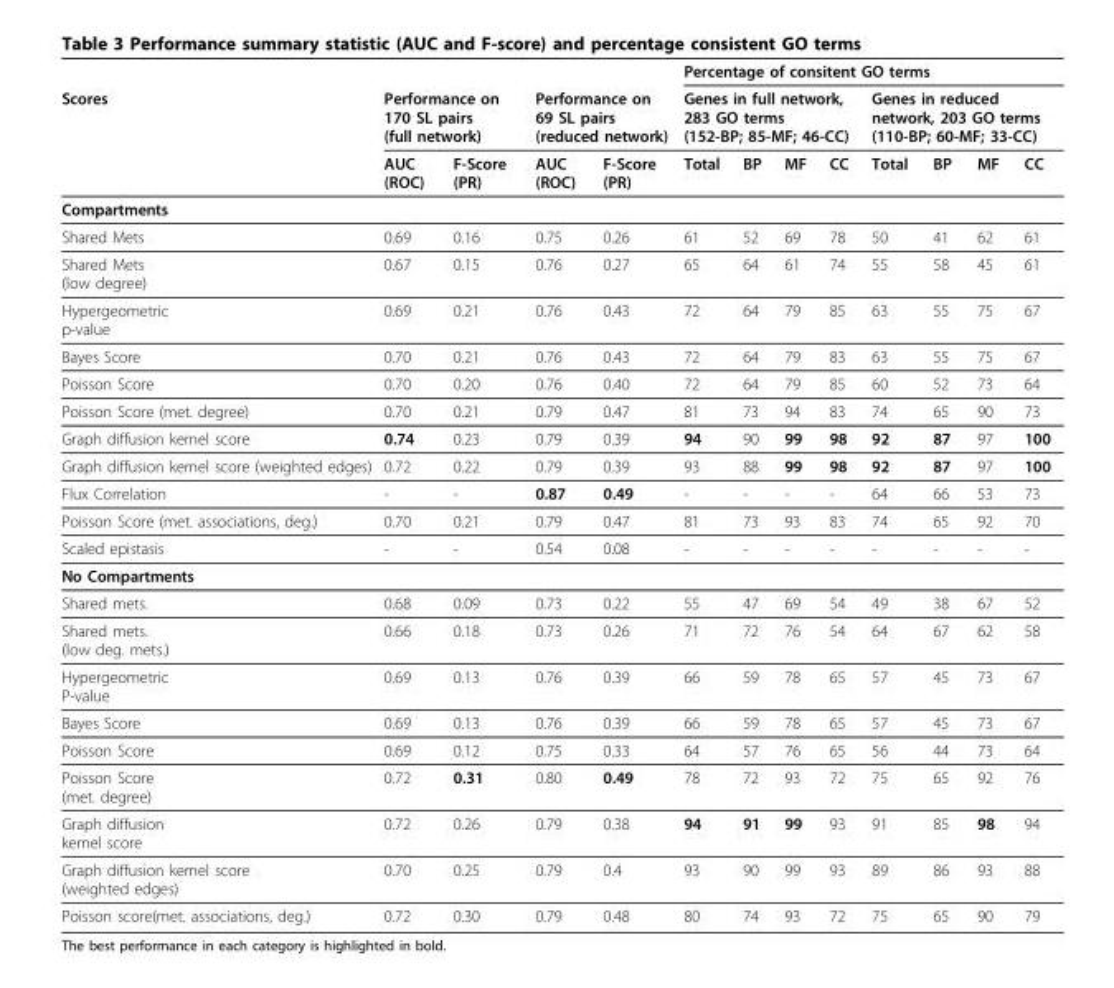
<table><thead><tr><td rowspan="3">Scores</td><td></td><td></td><td></td><td></td><td colspan="8">Percentage of consitent GO terms</td></tr><tr><td colspan="2">Performance on 170 SL pairs (full network)</td><td colspan="2">Performance on 69 SL pairs (reduced network)</td><td colspan="4">Genes in full network, 283 GO terms (152-BP; 85-MF; 46-CC)</td><td colspan="4">Genes in reduced network, 203 GO terms (110-BP; 60-MF; 33-CC)</td></tr><tr><td>AUC (ROC)</td><td>F-Score (PR)</td><td>AUC (ROC)</td><td>F-Score (PR)</td><td>Total</td><td>BP</td><td>MF</td><td>CC</td><td>Total</td><td>BP</td><td>MF</td><td>CC</td></tr></thead><tbody><tr><td colspan="13">Compartments</td></tr><tr><td>Shared Mets</td><td>0.69</td><td>0.16</td><td>0.75</td><td>0.26</td><td>61</td><td>52</td><td>69</td><td>78</td><td>50</td><td>41</td><td>62</td><td>61</td></tr><tr><td>Shared Mets (low degree)</td><td>0.67</td><td>0.15</td><td>0.76</td><td>0.27</td><td>65</td><td>64</td><td>61</td><td>74</td><td>55</td><td>58</td><td>45</td><td>61</td></tr><tr><td>Hypergeometric p-value</td><td>0.69</td><td>0.21</td><td>0.76</td><td>0.43</td><td>72</td><td>64</td><td>79</td><td>85</td><td>63</td><td>55</td><td>75</td><td>67</td></tr><tr><td>Bayes Score</td><td>0.70</td><td>0.21</td><td>0.76</td><td>0.43</td><td>72</td><td>64</td><td>79</td><td>83</td><td>63</td><td>55</td><td>75</td><td>67</td></tr><tr><td>Poisson Score</td><td>0.70</td><td>0.20</td><td>0.76</td><td>0.40</td><td>72</td><td>64</td><td>79</td><td>85</td><td>60</td><td>52</td><td>73</td><td>64</td></tr><tr><td>Poisson Score (met. degree)</td><td>0.70</td><td>0.21</td><td>0.79</td><td>0.47</td><td>81</td><td>73</td><td>94</td><td>83</td><td>74</td><td>65</td><td>90</td><td>73</td></tr><tr><td>Graph diffusion kernel score</td><td>0.74</td><td>0.23</td><td>0.79</td><td>0.39</td><td>94</td><td>90</td><td>99</td><td>98</td><td>92</td><td>87</td><td>97</td><td>100</td></tr><tr><td>Graph diffusion kernel score (weighted edges)</td><td>0.72</td><td>0.22</td><td>0.79</td><td>0.39</td><td>93</td><td>88</td><td>99</td><td>98</td><td>92</td><td>87</td><td>97</td><td>100</td></tr><tr><td>Flux Correlation</td><td>-</td><td>-</td><td>0.87</td><td>0.49</td><td>-</td><td>-</td><td>-</td><td>-</td><td>64</td><td>66</td><td>53</td><td>73</td></tr><tr><td>Poisson Score (met. associations, deg.)</td><td>0.70</td><td>0.21</td><td>0.79</td><td>0.47</td><td>81</td><td>73</td><td>93</td><td>83</td><td>74</td><td>65</td><td>92</td><td>70</td></tr><tr><td>Scaled epistasis</td><td>-</td><td>-</td><td>0.54</td><td>0.08</td><td>-</td><td>-</td><td>-</td><td>-</td><td>-</td><td>-</td><td>-</td><td>-</td></tr><tr><td colspan="13">No Compartments</td></tr><tr><td>Shared mets.</td><td>0.68</td><td>0.09</td><td>0.73</td><td>0.22</td><td>55</td><td>47</td><td>69</td><td>54</td><td>49</td><td>38</td><td>67</td><td>52</td></tr><tr><td>Shared mets. (low deg. mets.)</td><td>0.66</td><td>0.18</td><td>0.73</td><td>0.26</td><td>71</td><td>72</td><td>76</td><td>54</td><td>64</td><td>67</td><td>62</td><td>58</td></tr><tr><td>Hypergeometric P-value</td><td>0.69</td><td>0.13</td><td>0.76</td><td>0.39</td><td>66</td><td>59</td><td>78</td><td>65</td><td>57</td><td>45</td><td>73</td><td>67</td></tr><tr><td>Bayes Score</td><td>0.69</td><td>0.13</td><td>0.76</td><td>0.39</td><td>66</td><td>59</td><td>78</td><td>65</td><td>57</td><td>45</td><td>73</td><td>67</td></tr><tr><td>Poisson Score</td><td>0.69</td><td>0.12</td><td>0.75</td><td>0.33</td><td>64</td><td>57</td><td>76</td><td>65</td><td>56</td><td>44</td><td>73</td><td>64</td></tr><tr><td>Poisson Score (met. degree)</td><td>0.72</td><td>0.31</td><td>0.80</td><td>0.49</td><td>78</td><td>72</td><td>93</td><td>72</td><td>75</td><td>65</td><td>92</td><td>76</td></tr><tr><td>Graph diffusion kernel score</td><td>0.72</td><td>0.26</td><td>0.79</td><td>0.38</td><td>94</td><td>91</td><td>99</td><td>93</td><td>91</td><td>85</td><td>98</td><td>94</td></tr><tr><td>Graph diffusion kernel score (weighted edges)</td><td>0.70</td><td>0.25</td><td>0.79</td><td>0.4</td><td>93</td><td>90</td><td>99</td><td>93</td><td>89</td><td>86</td><td>93</td><td>88</td></tr><tr><td>Poisson score(met. associations, deg.)</td><td>0.72</td><td>0.30</td><td>0.79</td><td>0.48</td><td>80</td><td>74</td><td>93</td><td>72</td><td>75</td><td>65</td><td>90</td><td>79</td></tr></tbody></table>